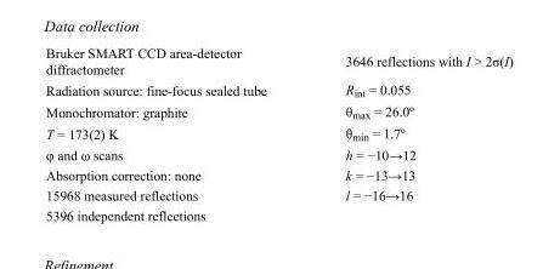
<table><tbody><tr><td>Bruker SMART CCD area-detector diffractometer</td><td>3646 reflections with I &gt; 2σ(I)</td></tr><tr><td>Radiation source: fine-focus sealed tube</td><td>R<sub>int</sub> = 0.055</td></tr><tr><td>Monochromator: graphite</td><td>θ<sub>max</sub> = 26.0º</td></tr><tr><td>T = 173(2) K</td><td>θ<sub>min</sub> = 1.7º</td></tr><tr><td>φ and ω scans</td><td>h = −10→12</td></tr><tr><td>Absorption correction: none</td><td>k = −13→13</td></tr><tr><td>15968 measured reflections</td><td>l = −16→16</td></tr><tr><td>5396 independent reflections</td><td></td></tr></tbody></table>